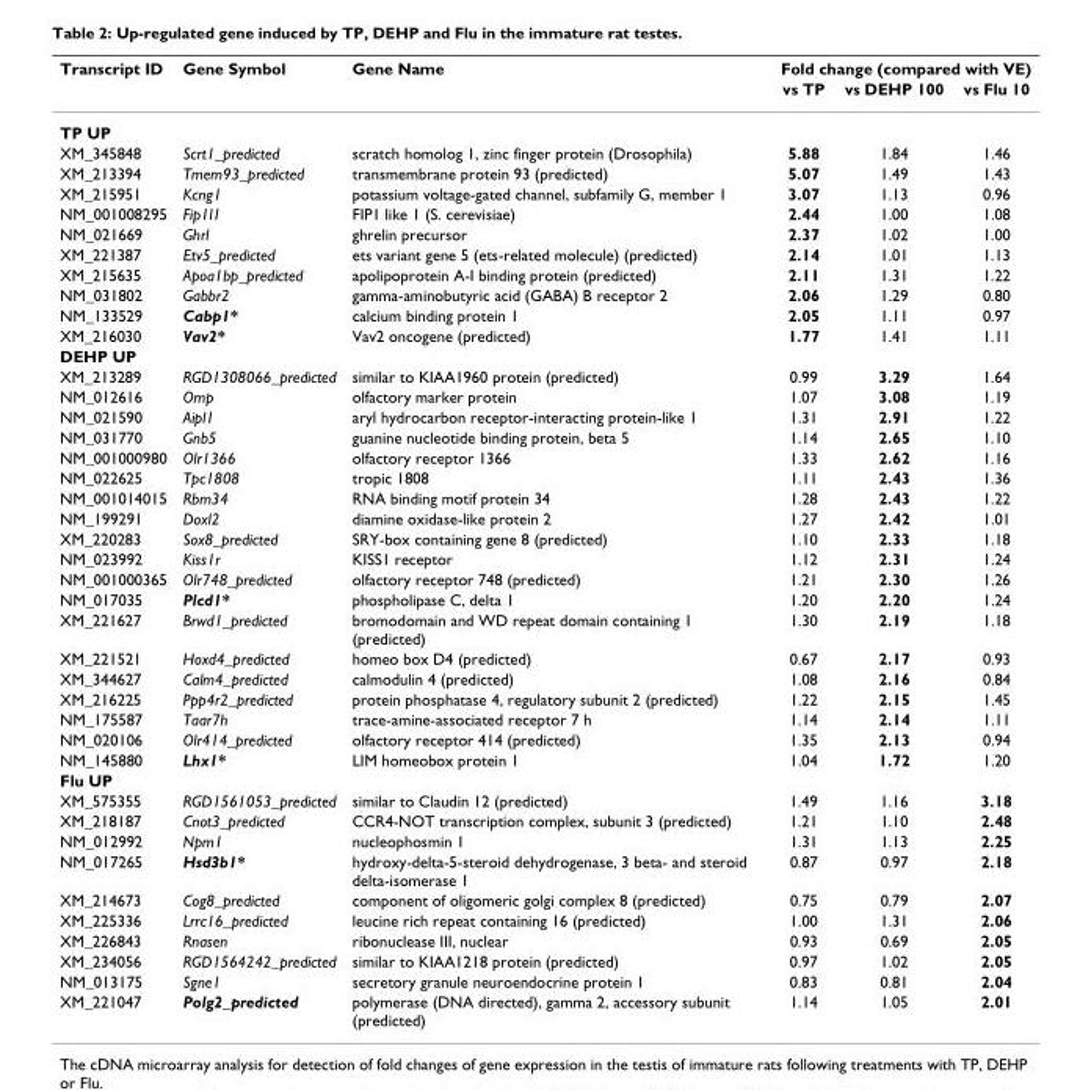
<table><thead><tr><td rowspan="2">Transcript ID</td><td rowspan="2">Gene Symbol</td><td rowspan="2">Gene Name</td><td colspan="3">Fold change (compared with VE)</td></tr><tr><td>vs TP</td><td>vs DEHP 100</td><td>vs Flu 10</td></tr></thead><tbody><tr><td colspan="6">TP UP</td></tr><tr><td>XM_345848</td><td>Scrt1_predicted</td><td>scratch homolog 1, zinc finger protein (Drosophila)</td><td>5.88</td><td>1.84</td><td>1.46</td></tr><tr><td>XM_213394</td><td>Tmem93_predicted</td><td>transmembrane protein 93 (predicted)</td><td>5.07</td><td>1.49</td><td>1.43</td></tr><tr><td>XM_215951</td><td>Kcng1</td><td>potassium voltage-gated channel, subfamily G, member 1</td><td>3.07</td><td>1.13</td><td>0.96</td></tr><tr><td>NM_001008295</td><td>Fip1l1</td><td>FIP1 like 1 (S. cerevisiae)</td><td>2.44</td><td>1.00</td><td>1.08</td></tr><tr><td>NM_021669</td><td>Ghrl</td><td>ghrelin precursor</td><td>2.37</td><td>1.02</td><td>1.00</td></tr><tr><td>XM_221387</td><td>Etv5_predicted</td><td>ets variant gene 5 (ets-related molecule) (predicted)</td><td>2.14</td><td>1.01</td><td>1.13</td></tr><tr><td>XM_215635</td><td>Apoa1bp_predicted</td><td>apolipoprotein A-I binding protein (predicted)</td><td>2.11</td><td>1.31</td><td>1.22</td></tr><tr><td>NM_031802</td><td>Gabbr2</td><td>gamma-aminobutyric acid (GABA) B receptor 2</td><td>2.06</td><td>1.29</td><td>0.80</td></tr><tr><td>NM_133529</td><td>Cabp1*</td><td>calcium binding protein 1</td><td>2.05</td><td>1.11</td><td>0.97</td></tr><tr><td>XM_216030</td><td>Vav2*</td><td>Vav2 oncogene (predicted)</td><td>1.77</td><td>1.41</td><td>1.11</td></tr><tr><td colspan="6">DEHP UP</td></tr><tr><td>XM_213289</td><td>RGD1308066_predicted</td><td>similar to KIAA1960 protein (predicted)</td><td>0.99</td><td>3.29</td><td>1.64</td></tr><tr><td>NM_012616</td><td>Omp</td><td>olfactory marker protein</td><td>1.07</td><td>3.08</td><td>1.19</td></tr><tr><td>NM_021590</td><td>Aipl1</td><td>aryl hydrocarbon receptor-interacting protein-like 1</td><td>1.31</td><td>2.91</td><td>1.22</td></tr><tr><td>NM_031770</td><td>Gnb5</td><td>guanine nucleotide binding protein, beta 5</td><td>1.14</td><td>2.65</td><td>1.10</td></tr><tr><td>NM_001000980</td><td>Olr1366</td><td>olfactory receptor 1366</td><td>1.33</td><td>2.62</td><td>1.16</td></tr><tr><td>NM_022625</td><td>Tpc1808</td><td>tropic 1808</td><td>1.11</td><td>2.43</td><td>1.36</td></tr><tr><td>NM_001014015</td><td>Rbm34</td><td>RNA binding motif protein 34</td><td>1.28</td><td>2.43</td><td>1.22</td></tr><tr><td>NM_199291</td><td>Doxl2</td><td>diamine oxidase-like protein 2</td><td>1.27</td><td>2.42</td><td>1.01</td></tr><tr><td>XM_220283</td><td>Sox8_predicted</td><td>SRY-box containing gene 8 (predicted)</td><td>1.10</td><td>2.33</td><td>1.18</td></tr><tr><td>NM_023992</td><td>Kiss1r</td><td>KISS1 receptor</td><td>1.12</td><td>2.31</td><td>1.24</td></tr><tr><td>NM_001000365</td><td>Olr748_predicted</td><td>olfactory receptor 748 (predicted)</td><td>1.21</td><td>2.30</td><td>1.26</td></tr><tr><td>NM_017035</td><td>Plcd1*</td><td>phospholipase C, delta 1</td><td>1.20</td><td>2.20</td><td>1.24</td></tr><tr><td>XM_221627</td><td>Brwd1_predicted</td><td>bromodomain and WD repeat domain containing 1 (predicted)</td><td>1.30</td><td>2.19</td><td>1.18</td></tr><tr><td>XM_221521</td><td>Hoxd4_predicted</td><td>homeo box D4 (predicted)</td><td>0.67</td><td>2.17</td><td>0.93</td></tr><tr><td>XM_344627</td><td>Calm4_predicted</td><td>calmodulin 4 (predicted)</td><td>1.08</td><td>2.16</td><td>0.84</td></tr><tr><td>XM_216225</td><td>Ppp4r2_predicted</td><td>protein phosphatase 4, regulatory subunit 2 (predicted)</td><td>1.22</td><td>2.15</td><td>1.45</td></tr><tr><td>NM_175587</td><td>Taar7h</td><td>trace-amine-associated receptor 7 h</td><td>1.14</td><td>2.14</td><td>1.11</td></tr><tr><td>NM_020106</td><td>Olr414_predicted</td><td>olfactory receptor 414 (predicted)</td><td>1.35</td><td>2.13</td><td>0.94</td></tr><tr><td>NM_145880</td><td>Lhx1*</td><td>LIM homeobox protein 1</td><td>1.04</td><td>1.72</td><td>1.20</td></tr><tr><td colspan="6">Flu UP</td></tr><tr><td>XM_575355</td><td>RGD1561053_predicted</td><td>similar to Claudin 12 (predicted)</td><td>1.49</td><td>1.16</td><td>3.18</td></tr><tr><td>XM_218187</td><td>Cnot3_predicted</td><td>CCR4-NOT transcription complex, subunit 3 (predicted)</td><td>1.21</td><td>1.10</td><td>2.48</td></tr><tr><td>NM_012992</td><td>Npm1</td><td>nucleophosmin 1</td><td>1.31</td><td>1.13</td><td>2.25</td></tr><tr><td>NM_017265</td><td>Hsd3b1*</td><td>hydroxy-delta-5-steroid dehydrogenase, 3 beta- and steroid delta-isomerase 1</td><td>0.87</td><td>0.97</td><td>2.18</td></tr><tr><td>XM_214673</td><td>Cog8_predicted</td><td>component of oligomeric golgi complex 8 (predicted)</td><td>0.75</td><td>0.79</td><td>2.07</td></tr><tr><td>XM_225336</td><td>Lrrc16_predicted</td><td>leucine rich repeat containing 16 (predicted)</td><td>1.00</td><td>1.31</td><td>2.06</td></tr><tr><td>XM_226843</td><td>Rnasen</td><td>ribonuclease III, nuclear</td><td>0.93</td><td>0.69</td><td>2.05</td></tr><tr><td>XM_234056</td><td>RGD1564242_predicted</td><td>similar to KIAA1218 protein (predicted)</td><td>0.97</td><td>1.02</td><td>2.05</td></tr><tr><td>NM_013175</td><td>Sgne1</td><td>secretory granule neuroendocrine protein 1</td><td>0.83</td><td>0.81</td><td>2.04</td></tr><tr><td>XM_221047</td><td>Polg2_predicted</td><td>polymerase (DNA directed), gamma 2, accessory subunit (predicted)</td><td>1.14</td><td>1.05</td><td>2.01</td></tr></tbody></table>